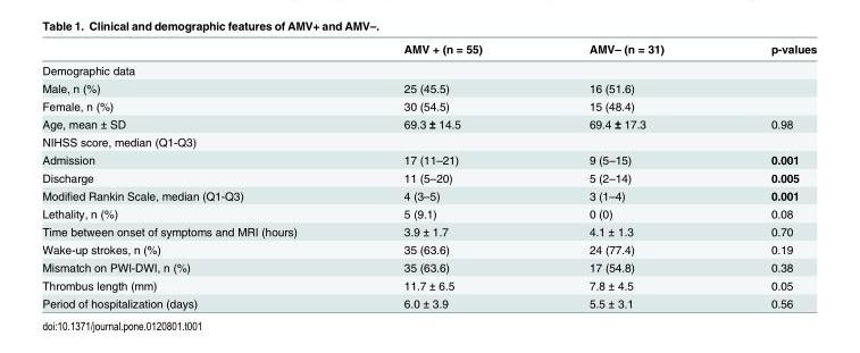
<table><thead><tr><td></td><td>AMV + (n = 55)</td><td>AMV– (n = 31)</td><td>p-values</td></tr></thead><tbody><tr><td colspan="4">Demographic data</td></tr><tr><td>Male, n (%)</td><td>25 (45.5)</td><td>16 (51.6)</td><td></td></tr><tr><td>Female, n (%)</td><td>30 (54.5)</td><td>15 (48.4)</td><td></td></tr><tr><td>Age, mean ± SD</td><td>69.3 ± 14.5</td><td>69.4 ± 17.3</td><td>0.98</td></tr><tr><td colspan="4">NIHSS score, median (Q1-Q3)</td></tr><tr><td>Admission</td><td>17 (11–21)</td><td>9 (5–15)</td><td>0.001</td></tr><tr><td>Discharge</td><td>11 (5–20)</td><td>5 (2–14)</td><td>0.005</td></tr><tr><td>Modified Rankin Scale, median (Q1-Q3)</td><td>4 (3–5)</td><td>3 (1–4)</td><td>0.001</td></tr><tr><td>Lethality, n (%)</td><td>5 (9.1)</td><td>0 (0)</td><td>0.08</td></tr><tr><td>Time between onset of symptoms and MRI (hours)</td><td>3.9 ± 1.7</td><td>4.1 ± 1.3</td><td>0.70</td></tr><tr><td>Wake-up strokes, n (%)</td><td>35 (63.6)</td><td>24 (77.4)</td><td>0.19</td></tr><tr><td>Mismatch on PWI-DWI, n (%)</td><td>35 (63.6)</td><td>17 (54.8)</td><td>0.38</td></tr><tr><td>Thrombus length (mm)</td><td>11.7 ± 6.5</td><td>7.8 ± 4.5</td><td>0.05</td></tr><tr><td>Period of hospitalization (days)</td><td>6.0 ± 3.9</td><td>5.5 ± 3.1</td><td>0.56</td></tr></tbody></table>